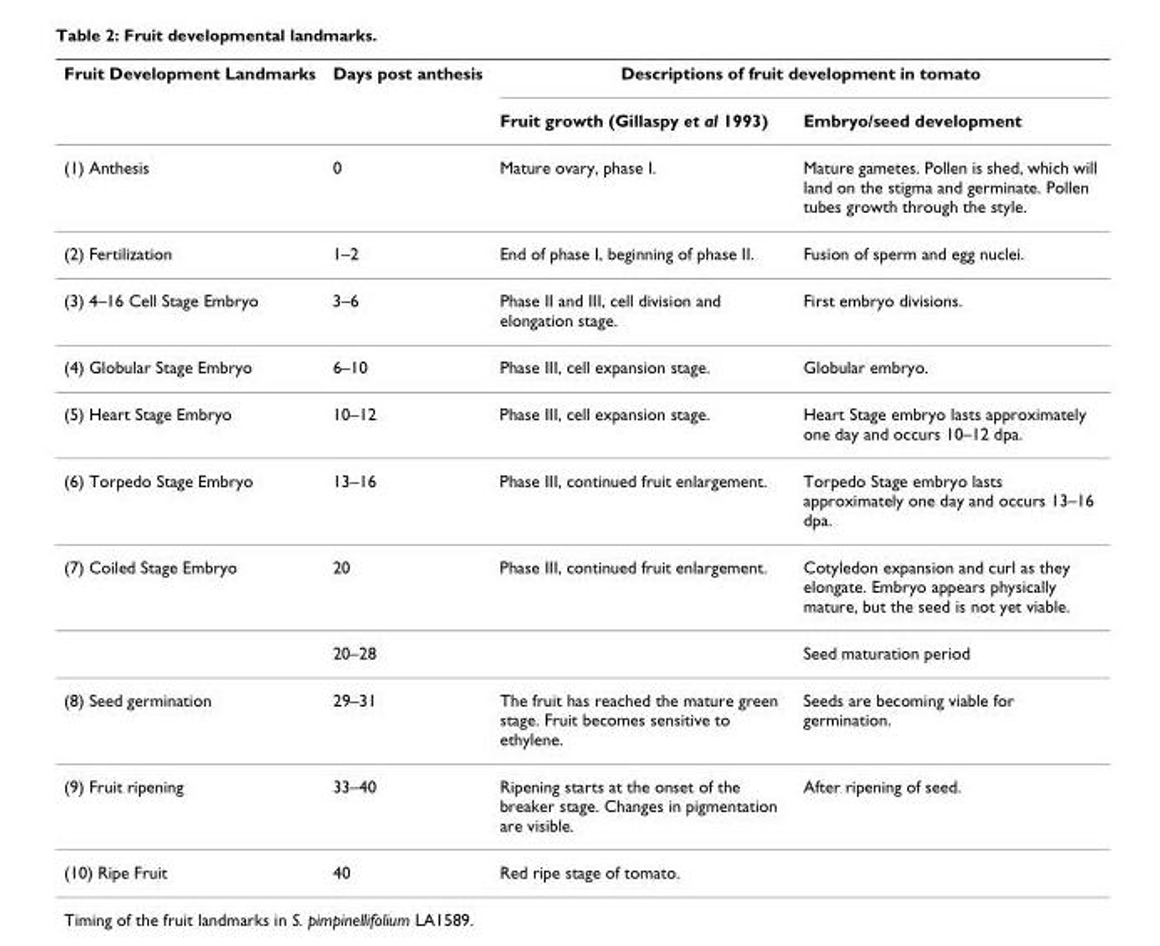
<table><thead><tr><td rowspan="2">Fruit Development Landmarks</td><td rowspan="2">Days post anthesis</td><td colspan="2">Descriptions of fruit development in tomato</td></tr><tr><td>Fruit growth (Gillaspy et al 1993)</td><td>Embryo/seed development</td></tr></thead><tbody><tr><td>(1) Anthesis</td><td>0</td><td>Mature ovary, phase I.</td><td>Mature gametes. Pollen is shed, which will land on the stigma and germinate. Pollen tubes growth through the style.</td></tr><tr><td>(2) Fertilization</td><td>1–2</td><td>End of phase I, beginning of phase II.</td><td>Fusion of sperm and egg nuclei.</td></tr><tr><td>(3) 4–16 Cell Stage Embryo</td><td>3–6</td><td>Phase II and III, cell division and elongation stage.</td><td>First embryo divisions.</td></tr><tr><td>(4) Globular Stage Embryo</td><td>6–10</td><td>Phase III, cell expansion stage.</td><td>Globular embryo.</td></tr><tr><td>(5) Heart Stage Embryo</td><td>10–12</td><td>Phase III, cell expansion stage.</td><td>Heart Stage embryo lasts approximately one day and occurs 10–12 dpa.</td></tr><tr><td>(6) Torpedo Stage Embryo</td><td>13–16</td><td>Phase III, continued fruit enlargement.</td><td>Torpedo Stage embryo lasts approximately one day and occurs 13–16 dpa.</td></tr><tr><td rowspan="2">(7) Coiled Stage Embryo</td><td>20</td><td>Phase III, continued fruit enlargement.</td><td>Cotyledon expansion and curl as they elongate. Embryo appears physically mature, but the seed is not yet viable.</td></tr><tr><td>20–28</td><td></td><td>Seed maturation period</td></tr><tr><td>(8) Seed germination</td><td>29–31</td><td>The fruit has reached the mature green stage. Fruit becomes sensitive to ethylene.</td><td>Seeds are becoming viable for germination.</td></tr><tr><td>(9) Fruit ripening</td><td>33–40</td><td>Ripening starts at the onset of the breaker stage. Changes in pigmentation are visible.</td><td>After ripening of seed.</td></tr><tr><td>(10) Ripe Fruit</td><td>40</td><td>Red ripe stage of tomato.</td><td></td></tr></tbody></table>